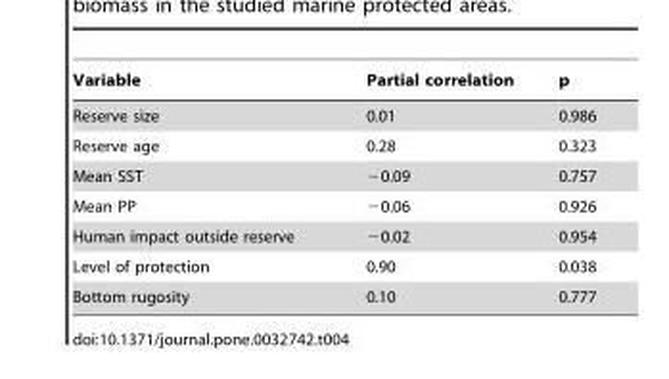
<table><thead><tr><td>Variable</td><td>Partial correlation</td><td>p</td></tr></thead><tbody><tr><td>Reserve size</td><td>0.01</td><td>0.986</td></tr><tr><td>Reserve age</td><td>0.28</td><td>0.323</td></tr><tr><td>Mean SST</td><td>−0.09</td><td>0.757</td></tr><tr><td>Mean PP</td><td>−0.06</td><td>0.926</td></tr><tr><td>Human impact outside reserve</td><td>−0.02</td><td>0.954</td></tr><tr><td>Level of protection</td><td>0.90</td><td>0.038</td></tr><tr><td>Bottom rugosity</td><td>0.10</td><td>0.777</td></tr></tbody></table>